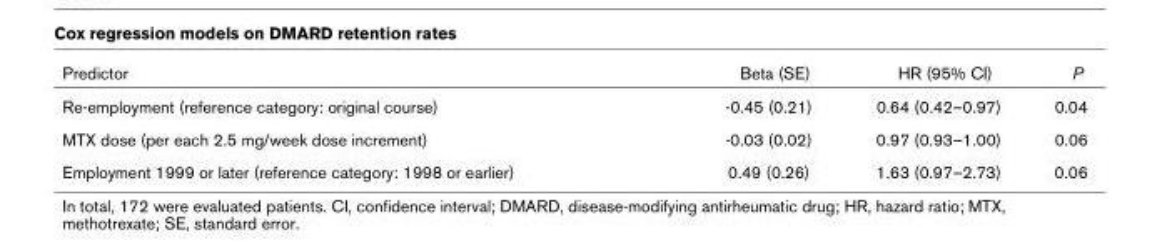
<table><thead><tr><td>Predictor</td><td>Beta (SE)</td><td>HR (95% CI)</td><td>P</td></tr></thead><tbody><tr><td>Re-employment (reference category: original course)</td><td>-0.45 (0.21)</td><td>0.64 (0.42–0.97)</td><td>0.04</td></tr><tr><td>MTX dose (per each 2.5 mg/week dose increment)</td><td>-0.03 (0.02)</td><td>0.97 (0.93–1.00)</td><td>0.06</td></tr><tr><td>Employment 1999 or later (reference category: 1998 or earlier)</td><td>0.49 (0.26)</td><td>1.63 (0.97–2.73)</td><td>0.06</td></tr></tbody></table>